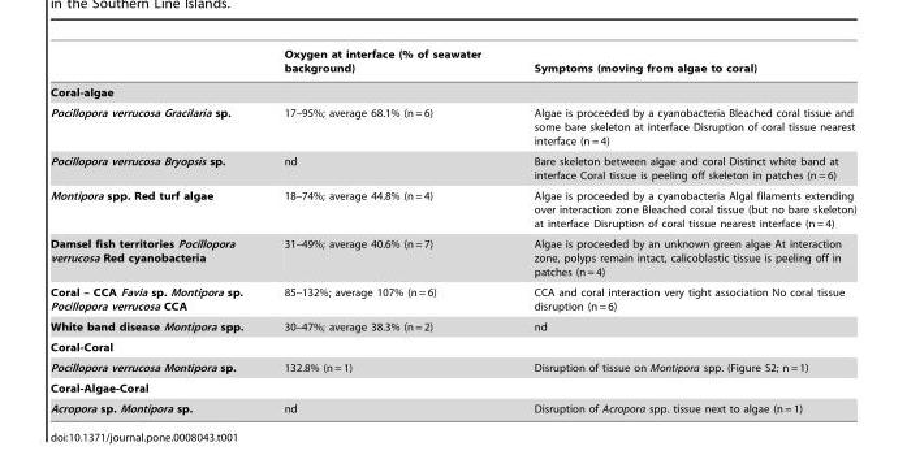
<table><thead><tr><td></td><td>Oxygen at interface (% of seawater background)</td><td>Symptoms (moving from algae to coral)</td></tr></thead><tbody><tr><td colspan="3">Coral-algae</td></tr><tr><td>Pocillopora verrucosa Gracilaria sp.</td><td>17–95%; average 68.1% (n = 6)</td><td>Algae is proceeded by a cyanobacteria Bleached coral tissue and some bare skeleton at interface Disruption of coral tissue nearest interface (n = 4)</td></tr><tr><td>Pocillopora verrucosa Bryopsis sp.</td><td>nd</td><td>Bare skeleton between algae and coral Distinct white band at interface Coral tissue is peeling off skeleton in patches (n = 6)</td></tr><tr><td>Montipora spp. Red turf algae</td><td>18–74%; average 44.8% (n = 4)</td><td>Algae is proceeded by a cyanobacteria Algal filaments extending over interaction zone Bleached coral tissue (but no bare skeleton) at interface Disruption of coral tissue nearest interface (n = 4)</td></tr><tr><td>Damsel fish territories Pocillopora verrucosa Red cyanobacteria</td><td>31–49%; average 40.6% (n = 7)</td><td>Algae is proceeded by an unknown green algae At interaction zone, polyps remain intact, calicoblastic tissue is peeling off in patches (n = 4)</td></tr><tr><td>Coral – CCA Favia sp. Montipora sp. Pocillopora verrucosa CCA</td><td>85–132%; average 107% (n = 6)</td><td>CCA and coral interaction very tight association No coral tissue disruption (n = 6)</td></tr><tr><td>White band disease Montipora spp.</td><td>30–47%; average 38.3% (n = 2)</td><td>nd</td></tr><tr><td colspan="3">Coral-Coral</td></tr><tr><td>Pocillopora verrucosa Montipora sp.</td><td>132.8% (n = 1)</td><td>Disruption of tissue on Montipora spp. (Figure S2; n = 1)</td></tr><tr><td colspan="3">Coral-Algae-Coral</td></tr><tr><td>Acropora sp. Montipora sp.</td><td>nd</td><td>Disruption of Acropora spp. tissue next to algae (n = 1)</td></tr></tbody></table>